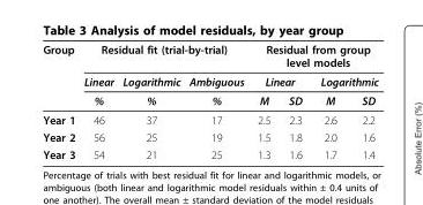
<table><thead><tr><td rowspan="3">Group</td><td colspan="3">Residual fit (trial-by-trial)</td><td colspan="4">Residual from group level models</td></tr><tr><td rowspan="2">Linear %</td><td rowspan="2">Logarithmic %</td><td rowspan="2">Ambiguous %</td><td colspan="2">Linear</td><td colspan="2">Logarithmic</td></tr><tr><td>M</td><td>SD</td><td>M</td><td>SD</td></tr></thead><tbody><tr><td>Year 1</td><td>46</td><td>37</td><td>17</td><td>2.5</td><td>2.3</td><td>2.6</td><td>2.2</td></tr><tr><td>Year 2</td><td>56</td><td>25</td><td>19</td><td>1.5</td><td>1.8</td><td>2.0</td><td>1.6</td></tr><tr><td>Year 3</td><td>54</td><td>21</td><td>25</td><td>1.3</td><td>1.6</td><td>1.7</td><td>1.4</td></tr></tbody></table>